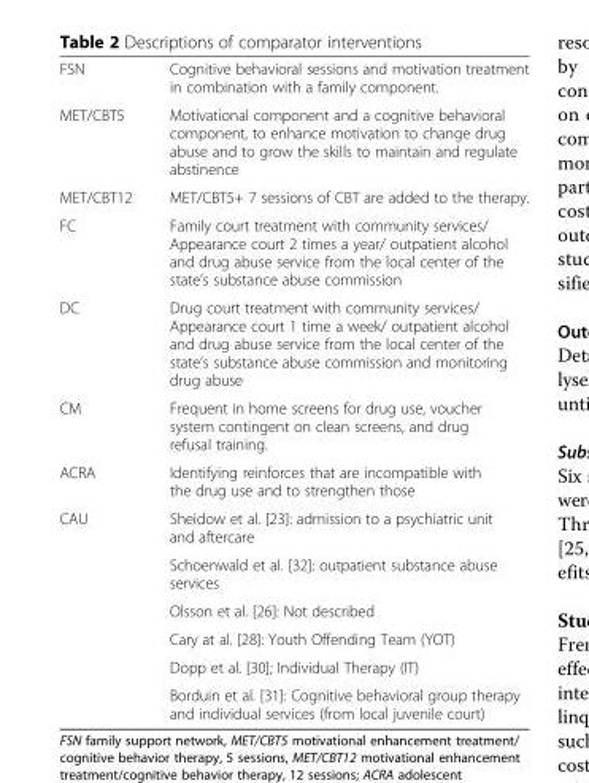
<table><tbody><tr><td>FSN</td><td>Cognitive behavioral sessions and motivation treatment in combination with a family component.</td></tr><tr><td>MET/CBT5</td><td>Motivational component and a cognitive behavioral component, to enhance motivation to change drug abuse and to grow the skills to maintain and regulate abstinence</td></tr><tr><td>MET/CBT12</td><td>MET/CBT5+ 7 sessions of CBT are added to the therapy.</td></tr><tr><td>FC</td><td>Family court treatment with community services/ Appearance court 2 times a year/ outpatient alcohol and drug abuse service from the local center of the state’s substance abuse commission</td></tr><tr><td>DC</td><td>Drug court treatment with community services/ Appearance court 1 time a week/ outpatient alcohol and drug abuse service from the local center of the state’s substance abuse commission and monitoring drug abuse</td></tr><tr><td>CM</td><td>Frequent in home screens for drug use, voucher system contingent on clean screens, and drug refusal training.</td></tr><tr><td>ACRA</td><td>Identifying reinforces that are incompatible with the drug use and to strengthen those</td></tr><tr><td rowspan="6">CAU</td><td>Sheidow et al. [23]: admission to a psychiatric unit and aftercare</td></tr><tr><td>Schoenwald et al. [32]: outpatient substance abuse services</td></tr><tr><td>Olsson et al. [26]: Not described</td></tr><tr><td>Cary at al. [28]: Youth Offending Team (YOT)</td></tr><tr><td>Dopp et al. [30]; Individual Therapy (IT)</td></tr><tr><td>Borduin et al. [31]: Cognitive behavioral group therapy and individual services (from local juvenile court)</td></tr></tbody></table>